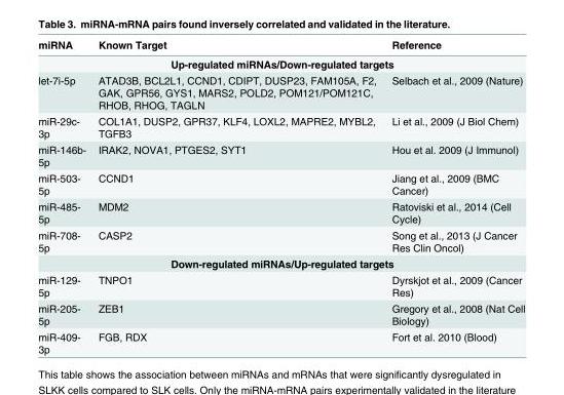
<table><thead><tr><td>miRNA</td><td>Known Target</td><td>Reference</td></tr></thead><tbody><tr><td colspan="3">Up-regulated miRNAs/Down-regulated targets</td></tr><tr><td>let-7i-5p</td><td>ATAD3B, BCL2L1, CCND1, CDIPT, DUSP23, FAM105A, F2, GAK, GPR56, GYS1, MARS2, POLD2, POM121/POM121C, RHOB, RHOG, TAGLN</td><td>Selbach et al., 2009 (Nature)</td></tr><tr><td>miR-29c- 3p</td><td>COL1A1, DUSP2, GPR37, KLF4, LOXL2, MAPRE2, MYBL2, TGFB3</td><td>Li et al., 2009 (J Biol Chem)</td></tr><tr><td>miR-146b- 5p</td><td>IRAK2, NOVA1, PTGES2, SYT1</td><td>Hou et al. 2009 (J Immunol)</td></tr><tr><td>miR-503- 5p</td><td>CCND1</td><td>Jiang et al., 2009 (BMC Cancer)</td></tr><tr><td>miR-485- 5p</td><td>MDM2</td><td>Ratoviski et al., 2014 (Cell Cycle)</td></tr><tr><td>miR-708- 5p</td><td>CASP2</td><td>Song et al., 2013 (J Cancer Res Clin Oncol)</td></tr><tr><td colspan="3">Down-regulated miRNAs/Up-regulated targets</td></tr><tr><td>miR-129- 5p</td><td>TNPO1</td><td>Dyrskjot et al., 2009 (Cancer Res)</td></tr><tr><td>miR-205- 5p</td><td>ZEB1</td><td>Gregory et al., 2008 (Nat Cell Biology)</td></tr><tr><td>miR-409- 3p</td><td>FGB, RDX</td><td>Fort et al. 2010 (Blood)</td></tr></tbody></table>